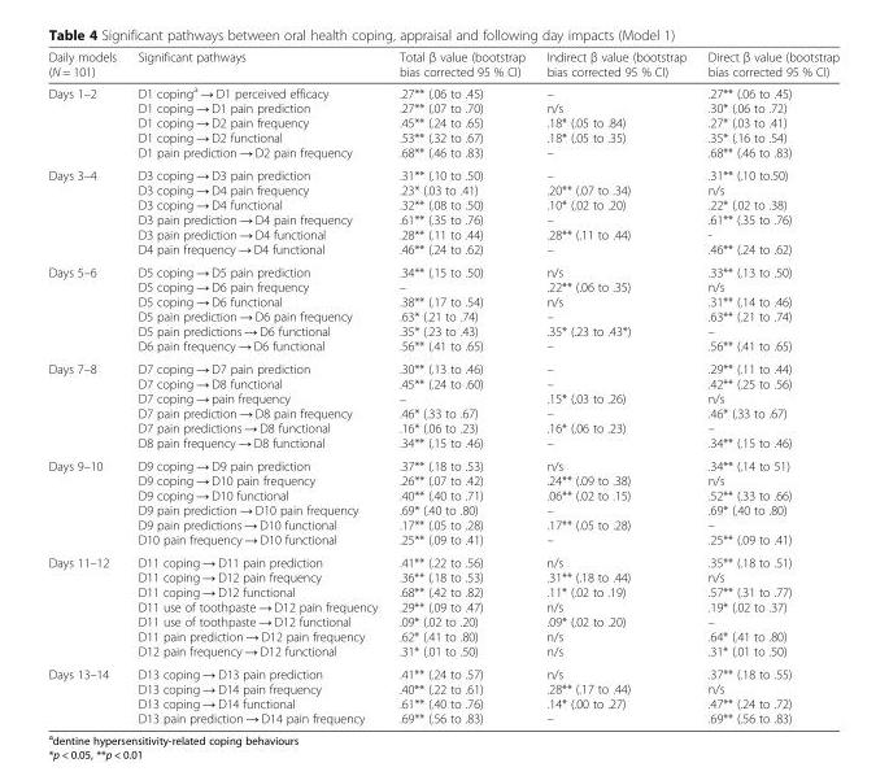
<table><thead><tr><td>Daily models (N = 101)</td><td>Significant pathways</td><td>Total β value (bootstrap bias corrected 95 % CI)</td><td>Indirect β value (bootstrap bias corrected 95 % CI)</td><td>Direct β value (bootstrap bias corrected 95 % CI)</td></tr></thead><tbody><tr><td>Days 1–2</td><td>D1 coping<sup>a</sup> → D1 perceived efficacy D1 coping → D1 pain prediction D1 coping → D2 pain frequency D1 coping → D2 functional D1 pain prediction → D2 pain frequency</td><td>.27** (.06 to .45) .27** (.07 to .70) .45** (.24 to .65) .53** (.32 to .67) .68** (.46 to .83)</td><td>– n/s .18* (.05 to .84) .18* (.05 to .35) –</td><td>.27** (.06 to .45) .30* (.06 to .72) .27* (.03 to .41) .35* (.16 to .54) .68** (.46 to .83)</td></tr><tr><td>Days 3–4</td><td>D3 coping → D3 pain prediction D3 coping → D4 pain frequency D3 coping → D4 functional D3 pain prediction → D4 pain frequency D3 pain prediction → D4 functional D4 pain frequency → D4 functional</td><td>.31** (.10 to .50) .23* (.03 to .41) .32** (.08 to .50) .61** (.35 to .76) .28** (.11 to .44) .46** (.24 to .62)</td><td>– .20** (.07 to .34) .10* (.02 to .20) – .28** (.11 to .44) –</td><td>.31** (.10 to.50) n/s .22* (.02 to .38) .61** (.35 to .76) - .46** (.24 to .62)</td></tr><tr><td>Days 5–6</td><td>D5 coping → D5 pain prediction D5 coping → D6 pain frequency D5 coping → D6 functional D5 pain prediction → D6 pain frequency D5 pain predictions → D6 functional D6 pain frequency → D6 functional</td><td>.34** (.15 to .50) – .38** (.17 to .54) .63* (.21 to .74) .35* (.23 to .43) .56** (.41 to .65)</td><td>n/s .22** (.06 to .35) n/s – .35* (.23 to .43*) –</td><td>.33** (.13 to .50) n/s .31** (.14 to .46) .63** (.21 to .74) – .56** (.41 to .65)</td></tr><tr><td>Days 7–8</td><td>D7 coping → D7 pain prediction D7 coping → D8 functional D7 coping → pain frequency D7 pain prediction → D8 pain frequency D7 pain predictions → D8 functional D8 pain frequency → D8 functional</td><td>.30** (.13 to .46) .45** (.24 to .60) – .46* (.33 to .67) .16* (.06 to .23) .34** (.15 to .46)</td><td>– – .15* (.03 to .26) – .16* (.06 to .23) –</td><td>.29** (.11 to .44) .42** (.25 to .56) n/s .46* (.33 to .67) – .34** (.15 to .46)</td></tr><tr><td>Days 9–10</td><td>D9 coping → D9 pain prediction D9 coping → D10 pain frequency D9 coping → D10 functional D9 pain prediction → D10 pain frequency D9 pain predictions → D10 functional D10 pain frequency → D10 functional</td><td>.37** (.18 to .53) .26** (.07 to .42) .40** (.40 to .71) .69* (.40 to .80) .17** (.05 to .28) .25** (.09 to .41)</td><td>n/s .24** (.09 to .38) .06** (.02 to .15) – .17** (.05 to .28) –</td><td>.34** (.14 to 51) n/s .52** (.33 to .66) .69* (.40 to .80) – .25** (.09 to .41)</td></tr><tr><td>Days 11–12</td><td>D11 coping → D11 pain prediction D11 coping → D12 pain frequency D11 coping → D12 functional D11 use of toothpaste → D12 pain frequency D11 use of toothpaste → D12 functional D11 pain prediction → D12 pain frequency D12 pain frequency → D12 functional</td><td>.41** (.22 to .56) .36** (.18 to .53) .68** (.42 to .82) .29** (.09 to .47) .09* (.02 to .20) .62* (.41 to .80) .31* (.01 to .50)</td><td>n/s .31** (.18 to .44) .11* (.02 to .19) n/s .09* (.02 to .20) n/s n/s</td><td>.35** (.18 to .51) n/s .57** (.31 to .77) .19* (.02 to .37) – .64* (.41 to .80) .31* (.01 to .50)</td></tr><tr><td>Days 13–14</td><td>D13 coping → D13 pain prediction D13 coping → D14 pain frequency D13 coping → D14 functional D13 pain prediction → D14 pain frequency</td><td>.41** (.24 to .57) .40** (.22 to .61) .61** (.40 to .76) .69** (.56 to .83)</td><td>n/s .28** (.17 to .44) .14* (.00 to .27) –</td><td>.37** (.18 to .55) n/s .47** (.24 to .72) .69** (.56 to .83)</td></tr></tbody></table>